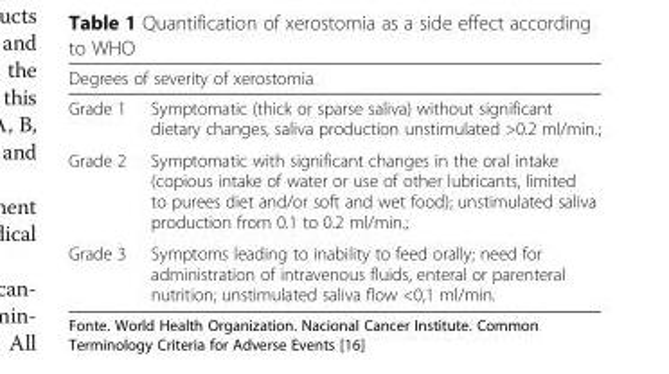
<table><thead><tr><td colspan="2">Degrees of severity of xerostomia</td></tr><tr><td>Grade 1</td><td>Symptomatic (thick or sparse saliva) without significant dietary changes, saliva production unstimulated &gt;0.2 ml/min.;</td></tr></thead><tbody><tr><td>Grade 2</td><td>Symptomatic with significant changes in the oral intake (copious intake of water or use of other lubricants, limited to purees diet and/or soft and wet food); unstimulated saliva production from 0.1 to 0.2 ml/min.;</td></tr><tr><td>Grade 3</td><td>Symptoms leading to inability to feed orally; need for administration of intravenous fluids, enteral or parenteral nutrition; unstimulated saliva flow &lt;0,1 ml/min.</td></tr></tbody></table>